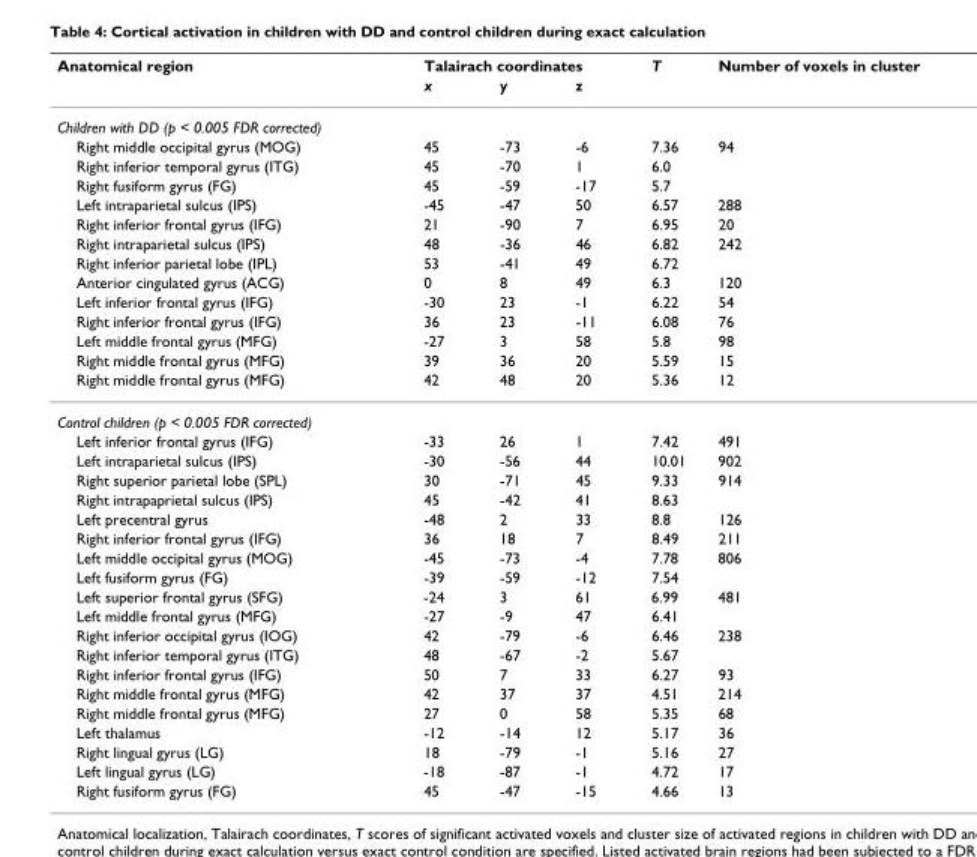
<table><thead><tr><td rowspan="2">Anatomical region</td><td colspan="3">Talairach coordinates</td><td rowspan="2">T</td><td rowspan="2">Number of voxels in cluster</td></tr><tr><td>x</td><td>y</td><td>z</td></tr></thead><tbody><tr><td colspan="6">Children with DD (p &lt; 0.005 FDR corrected)</td></tr><tr><td>Right middle occipital gyrus (MOG)</td><td>45</td><td>-73</td><td>-6</td><td>7.36</td><td>94</td></tr><tr><td>Right inferior temporal gyrus (ITG)</td><td>45</td><td>-70</td><td>1</td><td>6.0</td><td></td></tr><tr><td>Right fusiform gyrus (FG)</td><td>45</td><td>-59</td><td>-17</td><td>5.7</td><td></td></tr><tr><td>Left intraparietal sulcus (IPS)</td><td>-45</td><td>-47</td><td>50</td><td>6.57</td><td>288</td></tr><tr><td>Right inferior frontal gyrus (IFG)</td><td>21</td><td>-90</td><td>7</td><td>6.95</td><td>20</td></tr><tr><td>Right intraparietal sulcus (IPS)</td><td>48</td><td>-36</td><td>46</td><td>6.82</td><td>242</td></tr><tr><td>Right inferior parietal lobe (IPL)</td><td>53</td><td>-41</td><td>49</td><td>6.72</td><td></td></tr><tr><td>Anterior cingulated gyrus (ACG)</td><td>0</td><td>8</td><td>49</td><td>6.3</td><td>120</td></tr><tr><td>Left inferior frontal gyrus (IFG)</td><td>-30</td><td>23</td><td>-1</td><td>6.22</td><td>54</td></tr><tr><td>Right inferior frontal gyrus (IFG)</td><td>36</td><td>23</td><td>-11</td><td>6.08</td><td>76</td></tr><tr><td>Left middle frontal gyrus (MFG)</td><td>-27</td><td>3</td><td>58</td><td>5.8</td><td>98</td></tr><tr><td>Right middle frontal gyrus (MFG)</td><td>39</td><td>36</td><td>20</td><td>5.59</td><td>15</td></tr><tr><td>Right middle frontal gyrus (MFG)</td><td>42</td><td>48</td><td>20</td><td>5.36</td><td>12</td></tr><tr><td colspan="6">Control children (p &lt; 0.005 FDR corrected)</td></tr><tr><td>Left inferior frontal gyrus (IFG)</td><td>-33</td><td>26</td><td>1</td><td>7.42</td><td>491</td></tr><tr><td>Left intraparietal sulcus (IPS)</td><td>-30</td><td>-56</td><td>44</td><td>10.01</td><td>902</td></tr><tr><td>Right superior parietal lobe (SPL)</td><td>30</td><td>-71</td><td>45</td><td>9.33</td><td>914</td></tr><tr><td>Right intrapaprietal sulcus (IPS)</td><td>45</td><td>-42</td><td>41</td><td>8.63</td><td></td></tr><tr><td>Left precentral gyrus</td><td>-48</td><td>2</td><td>33</td><td>8.8</td><td>126</td></tr><tr><td>Right inferior frontal gyrus (IFG)</td><td>36</td><td>18</td><td>7</td><td>8.49</td><td>211</td></tr><tr><td>Left middle occipital gyrus (MOG)</td><td>-45</td><td>-73</td><td>-4</td><td>7.78</td><td>806</td></tr><tr><td>Left fusiform gyrus (FG)</td><td>-39</td><td>-59</td><td>-12</td><td>7.54</td><td></td></tr><tr><td>Left superior frontal gyrus (SFG)</td><td>-24</td><td>3</td><td>61</td><td>6.99</td><td>481</td></tr><tr><td>Left middle frontal gyrus (MFG)</td><td>-27</td><td>-9</td><td>47</td><td>6.41</td><td></td></tr><tr><td>Right inferior occipital gyrus (IOG)</td><td>42</td><td>-79</td><td>-6</td><td>6.46</td><td>238</td></tr><tr><td>Right inferior temporal gyrus (ITG)</td><td>48</td><td>-67</td><td>-2</td><td>5.67</td><td></td></tr><tr><td>Right inferior frontal gyrus (IFG)</td><td>50</td><td>7</td><td>33</td><td>6.27</td><td>93</td></tr><tr><td>Right middle frontal gyrus (MFG)</td><td>42</td><td>37</td><td>37</td><td>4.51</td><td>214</td></tr><tr><td>Right middle frontal gyrus (MFG)</td><td>27</td><td>0</td><td>58</td><td>5.35</td><td>68</td></tr><tr><td>Left thalamus</td><td>-12</td><td>-14</td><td>12</td><td>5.17</td><td>36</td></tr><tr><td>Right lingual gyrus (LG)</td><td>18</td><td>-79</td><td>-1</td><td>5.16</td><td>27</td></tr><tr><td>Left lingual gyrus (LG)</td><td>-18</td><td>-87</td><td>-1</td><td>4.72</td><td>17</td></tr><tr><td>Right fusiform gyrus (FG)</td><td>45</td><td>-47</td><td>-15</td><td>4.66</td><td>13</td></tr></tbody></table>